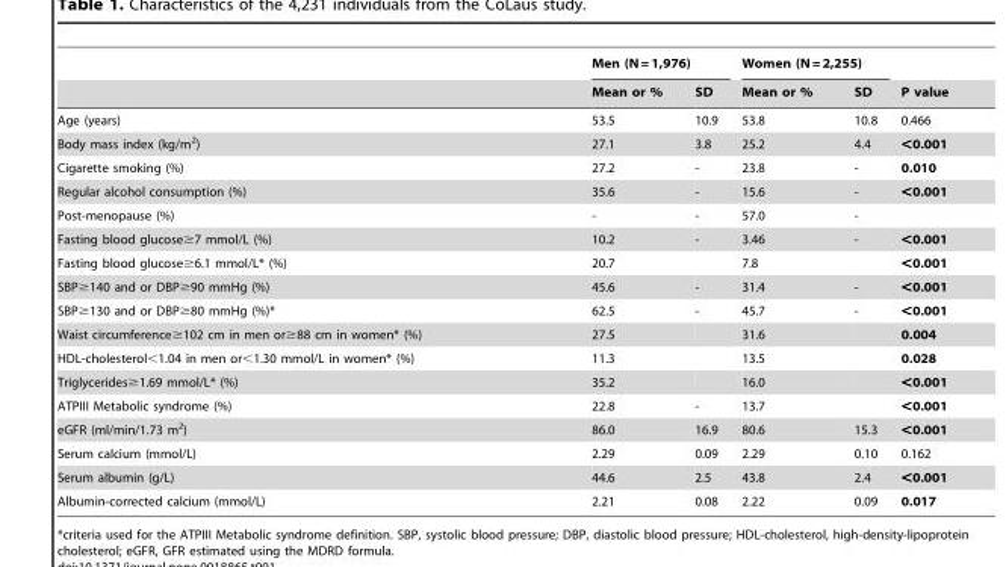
<table><thead><tr><td rowspan="2"></td><td colspan="2">Men (N = 1,976)</td><td colspan="2">Women (N = 2,255)</td><td rowspan="2">P value</td></tr><tr><td>Mean or %</td><td>SD</td><td>Mean or %</td><td>SD</td></tr></thead><tbody><tr><td>Age (years)</td><td>53.5</td><td>10.9</td><td>53.8</td><td>10.8</td><td>0.466</td></tr><tr><td>Body mass index (kg/m<sup>2</sup>)</td><td>27.1</td><td>3.8</td><td>25.2</td><td>4.4</td><td>&lt;0.001</td></tr><tr><td>Cigarette smoking (%)</td><td>27.2</td><td>-</td><td>23.8</td><td>-</td><td>0.010</td></tr><tr><td>Regular alcohol consumption (%)</td><td>35.6</td><td>-</td><td>15.6</td><td>-</td><td>&lt;0.001</td></tr><tr><td>Post-menopause (%)</td><td>-</td><td>-</td><td>57.0</td><td>-</td><td></td></tr><tr><td>Fasting blood glucose≥7 mmol/L (%)</td><td>10.2</td><td>-</td><td>3.46</td><td>-</td><td>&lt;0.001</td></tr><tr><td>Fasting blood glucose≥6.1 mmol/L* (%)</td><td>20.7</td><td></td><td>7.8</td><td></td><td>&lt;0.001</td></tr><tr><td>SBP≥140 and or DBP≥90 mmHg (%)</td><td>45.6</td><td>-</td><td>31.4</td><td>-</td><td>&lt;0.001</td></tr><tr><td>SBP≥130 and or DBP≥80 mmHg (%)*</td><td>62.5</td><td>-</td><td>45.7</td><td>-</td><td>&lt;0.001</td></tr><tr><td>Waist circumference≥102 cm in men or≥88 cm in women* (%)</td><td>27.5</td><td></td><td>31.6</td><td></td><td>0.004</td></tr><tr><td>HDL-cholesterol&lt;1.04 in men or&lt;1.30 mmol/L in women* (%)</td><td>11.3</td><td></td><td>13.5</td><td></td><td>0.028</td></tr><tr><td>Triglycerides≥1.69 mmol/L* (%)</td><td>35.2</td><td></td><td>16.0</td><td></td><td>&lt;0.001</td></tr><tr><td>ATPIII Metabolic syndrome (%)</td><td>22.8</td><td>-</td><td>13.7</td><td></td><td>&lt;0.001</td></tr><tr><td>eGFR (ml/min/1.73 m<sup>2</sup>)</td><td>86.0</td><td>16.9</td><td>80.6</td><td>15.3</td><td>&lt;0.001</td></tr><tr><td>Serum calcium (mmol/L)</td><td>2.29</td><td>0.09</td><td>2.29</td><td>0.10</td><td>0.162</td></tr><tr><td>Serum albumin (g/L)</td><td>44.6</td><td>2.5</td><td>43.8</td><td>2.4</td><td>&lt;0.001</td></tr><tr><td>Albumin-corrected calcium (mmol/L)</td><td>2.21</td><td>0.08</td><td>2.22</td><td>0.09</td><td>0.017</td></tr></tbody></table>